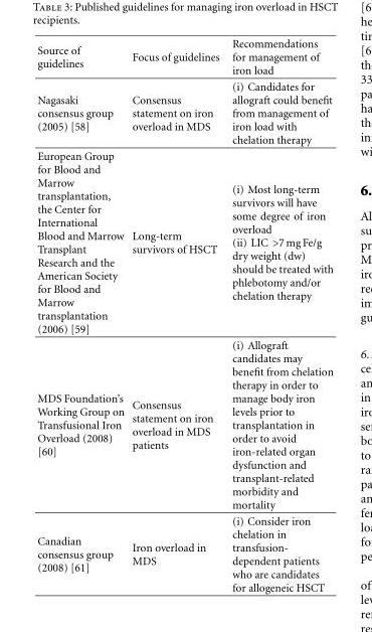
<table><thead><tr><td>Source of guidelines</td><td>Focus of guidelines</td><td>Recommendations for management of iron load</td></tr></thead><tbody><tr><td>Nagasaki consensus group (2005) [58]</td><td>Consensus statement on iron overload in MDS</td><td>(i) Candidates for allograft could benefit from management of iron load with chelation therapy</td></tr><tr><td>European Group for Blood and Marrow transplantation, the Center for International Blood and Marrow Transplant Research and the American Society for Blood and Marrow transplantation (2006) [59]</td><td>Long-term survivors of HSCT</td><td>(i) Most long-term survivors will have some degree of iron overload (ii) LIC &gt;7 mg Fe/g dry weight (dw) should be treated with phlebotomy and/or chelation therapy</td></tr><tr><td>MDS Foundation’s Working Group on Transfusional Iron Overload (2008) [60]</td><td>Consensus statement on iron overload in MDS patients</td><td>(i) Allograft candidates may benefit from chelation therapy in order to manage body iron levels prior to transplantation in order to avoid iron-related organ dysfunction and transplant-related morbidity and mortality</td></tr><tr><td>Canadian consensus group (2008) [61]</td><td>Iron overload in MDS</td><td>(i) Consider iron chelation in transfusion- dependent patients who are candidates for allogeneic HSCT</td></tr></tbody></table>